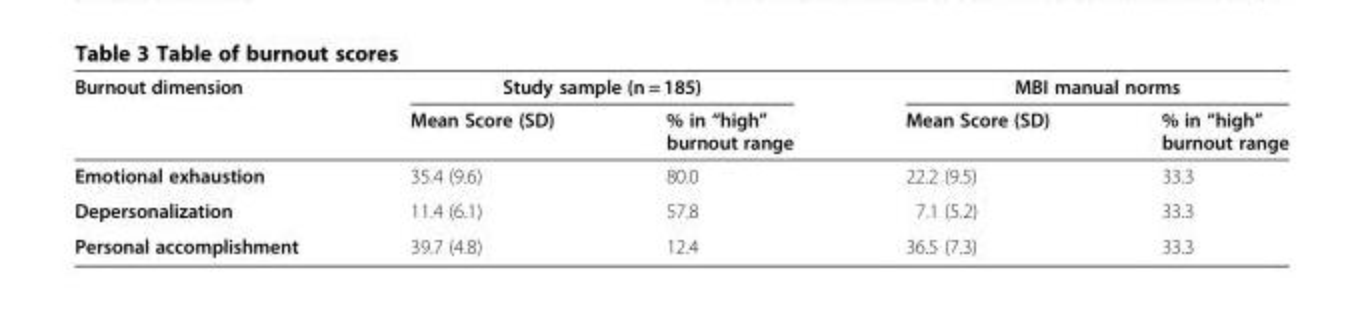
<table><thead><tr><td rowspan="2">Burnout dimension</td><td colspan="2">Study sample (n = 185)</td><td colspan="2">MBI manual norms</td></tr><tr><td>Mean Score (SD)</td><td>% in “high” burnout range</td><td>Mean Score (SD)</td><td>% in “high” burnout range</td></tr></thead><tbody><tr><td>Emotional exhaustion</td><td>35.4 (9.6)</td><td>80.0</td><td>22.2 (9.5)</td><td>33.3</td></tr><tr><td>Depersonalization</td><td>11.4 (6.1)</td><td>57.8</td><td>7.1 (5.2)</td><td>33.3</td></tr><tr><td>Personal accomplishment</td><td>39.7 (4.8)</td><td>12.4</td><td>36.5 (7.3)</td><td>33.3</td></tr></tbody></table>